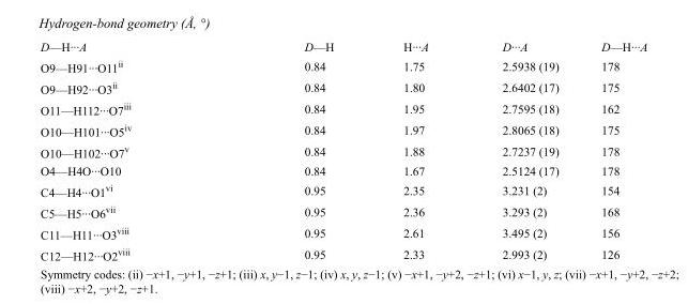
<table><tbody><tr><td>D—H···A</td><td>D—H</td><td>H···A</td><td>D···A</td><td>D—H···A</td></tr><tr><td>O9—H91···O11<sup>ii</sup></td><td>0.84</td><td>1.75</td><td>2.5938 (19)</td><td>178</td></tr><tr><td>O9—H92···O3<sup>ii</sup></td><td>0.84</td><td>1.80</td><td>2.6402 (17)</td><td>175</td></tr><tr><td>O11—H112···O7<sup>iii</sup></td><td>0.84</td><td>1.95</td><td>2.7595 (18)</td><td>162</td></tr><tr><td>O10—H101···O5<sup>iv</sup></td><td>0.84</td><td>1.97</td><td>2.8065 (18)</td><td>175</td></tr><tr><td>O10—H102···O7<sup>v</sup></td><td>0.84</td><td>1.88</td><td>2.7237 (19)</td><td>178</td></tr><tr><td>O4—H4O···O10</td><td>0.84</td><td>1.67</td><td>2.5124 (17)</td><td>178</td></tr><tr><td>C4—H4···O1<sup>vi</sup></td><td>0.95</td><td>2.35</td><td>3.231 (2)</td><td>154</td></tr><tr><td>C5—H5···O6<sup>vii</sup></td><td>0.95</td><td>2.36</td><td>3.293 (2)</td><td>168</td></tr><tr><td>C11—H11···O3<sup>viii</sup></td><td>0.95</td><td>2.61</td><td>3.495 (2)</td><td>156</td></tr><tr><td>C12—H12···O2<sup>viii</sup></td><td>0.95</td><td>2.33</td><td>2.993 (2)</td><td>126</td></tr></tbody></table>